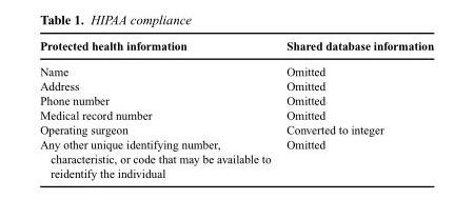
<table><thead><tr><td>Protected health information</td><td>Shared database information</td></tr></thead><tbody><tr><td>Name</td><td>Omitted</td></tr><tr><td>Address</td><td>Omitted</td></tr><tr><td>Phone number</td><td>Omitted</td></tr><tr><td>Medical record number</td><td>Omitted</td></tr><tr><td>Operating surgeon</td><td>Converted to integer</td></tr><tr><td>Any other unique identifying number, characteristic, or code that may be available to reidentify the individual</td><td>Omitted</td></tr></tbody></table>